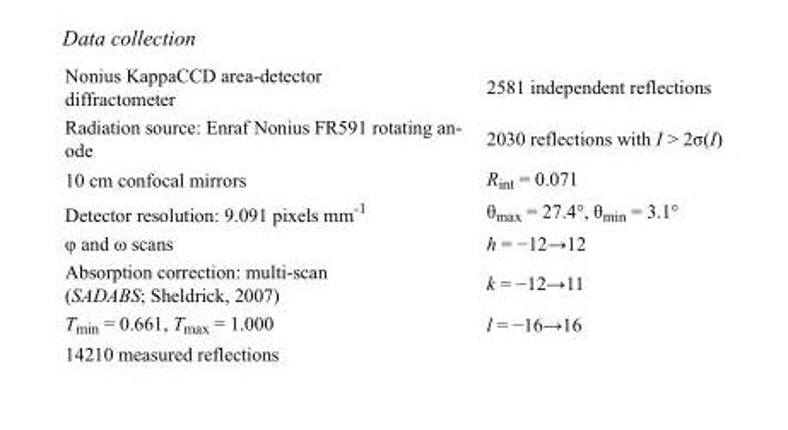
<table><tbody><tr><td>Nonius KappaCCD area-detector diffractometer</td><td>2581 independent reflections</td></tr><tr><td>Radiation source: Enraf Nonius FR591 rotating an- ode</td><td>2030 reflections with I &gt; 2σ(I)</td></tr><tr><td>10 cm confocal mirrors</td><td>R<sub>int</sub> = 0.071</td></tr><tr><td>Detector resolution: 9.091 pixels mm<sup>-1</sup></td><td>θ<sub>max</sub> = 27.4°, θ<sub>min</sub> = 3.1°</td></tr><tr><td>φ and ω scans</td><td>h = −12→12</td></tr><tr><td>Absorption correction: multi-scan (SADABS; Sheldrick, 2007)</td><td>k = −12→11</td></tr><tr><td>T<sub>min</sub> = 0.661, T<sub>max</sub> = 1.000</td><td>l = −16→16</td></tr><tr><td>14210 measured reflections</td><td></td></tr></tbody></table>